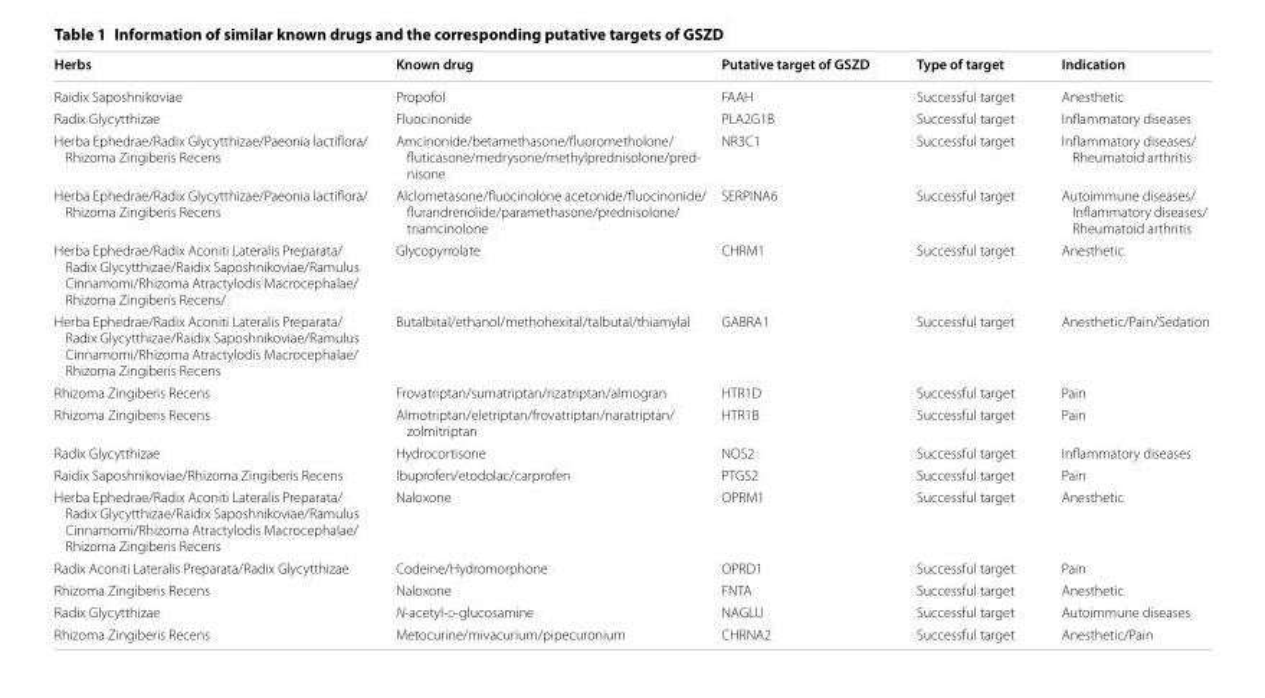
<table><thead><tr><td>Herbs</td><td>Known drug</td><td>Putative target of GSZD</td><td>Type of target</td><td>Indication</td></tr></thead><tbody><tr><td>Raidix Saposhnikoviae</td><td>Propofol</td><td>FAAH</td><td>Successful target</td><td>Anesthetic</td></tr><tr><td>Radix Glycytthizae</td><td>Fluocinonide</td><td>PLA2G1B</td><td>Successful target</td><td>Inflammatory diseases</td></tr><tr><td>Herba Ephedrae/Radix Glycytthizae/Paeonia lactiflora/ Rhizoma Zingiberis Recens</td><td>Amcinonide/betamethasone/fluorometholone/ fluticasone/medrysone/methylprednisolone/pred- nisone</td><td>NR3C1</td><td>Successful target</td><td>Inflammatory diseases/ Rheumatoid arthritis</td></tr><tr><td>Herba Ephedrae/Radix Glycytthizae/Paeonia lactiflora/ Rhizoma Zingiberis Recens</td><td>Alclometasone/fluocinolone acetonide/fluocinonide/ flurandrenolide/paramethasone/prednisolone/ triamcinolone</td><td>SERPINA6</td><td>Successful target</td><td>Autoimmune diseases/ Inflammatory diseases/ Rheumatoid arthritis</td></tr><tr><td>Herba Ephedrae/Radix Aconiti Lateralis Preparata/ Radix Glycytthizae/Raidix Saposhnikoviae/Ramulus Cinnamomi/Rhizoma Atractylodis Macrocephalae/ Rhizoma Zingiberis Recens/</td><td>Glycopyrrolate</td><td>CHRM1</td><td>Successful target</td><td>Anesthetic</td></tr><tr><td>Herba Ephedrae/Radix Aconiti Lateralis Preparata/ Radix Glycytthizae/Raidix Saposhnikoviae/Ramulus Cinnamomi/Rhizoma Atractylodis Macrocephalae/ Rhizoma Zingiberis Recens</td><td>Butalbital/ethanol/methohexital/talbutal/thiamylal</td><td>GABRA1</td><td>Successful target</td><td>Anesthetic/Pain/Sedation</td></tr><tr><td>Rhizoma Zingiberis Recens</td><td>Frovatriptan/sumatriptan/rizatriptan/almogran</td><td>HTR1D</td><td>Successful target</td><td>Pain</td></tr><tr><td>Rhizoma Zingiberis Recens</td><td>Almotriptan/eletriptan/frovatriptan/naratriptan/ zolmitriptan</td><td>HTR1B</td><td>Successful target</td><td>Pain</td></tr><tr><td>Radix Glycytthizae</td><td>Hydrocortisone</td><td>NOS2</td><td>Successful target</td><td>Inflammatory diseases</td></tr><tr><td>Raidix Saposhnikoviae/Rhizoma Zingiberis Recens</td><td>Ibuprofen/etodolac/carprofen</td><td>PTGS2</td><td>Successful target</td><td>Pain</td></tr><tr><td>Herba Ephedrae/Radix Aconiti Lateralis Preparata/ Radix Glycytthizae/Raidix Saposhnikoviae/Ramulus Cinnamomi/Rhizoma Atractylodis Macrocephalae/ Rhizoma Zingiberis Recens</td><td>Naloxone</td><td>OPRM1</td><td>Successful target</td><td>Anesthetic</td></tr><tr><td>Radix Aconiti Lateralis Preparata/Radix Glycytthizae</td><td>Codeine/Hydromorphone</td><td>OPRD1</td><td>Successful target</td><td>Pain</td></tr><tr><td>Rhizoma Zingiberis Recens</td><td>Naloxone</td><td>FNTA</td><td>Successful target</td><td>Anesthetic</td></tr><tr><td>Radix Glycytthizae</td><td>N-acetyl-d-glucosamine</td><td>NAGLU</td><td>Successful target</td><td>Autoimmune diseases</td></tr><tr><td>Rhizoma Zingiberis Recens</td><td>Metocurine/mivacurium/pipecuronium</td><td>CHRNA2</td><td>Successful target</td><td>Anesthetic/Pain</td></tr></tbody></table>